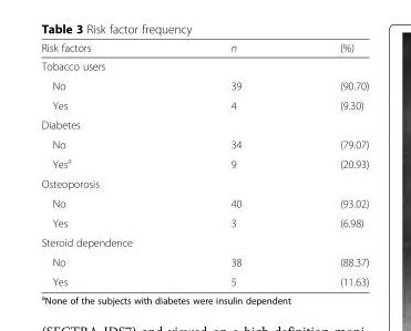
<table><thead><tr><td>Risk factors</td><td>n</td><td>(%)</td></tr></thead><tbody><tr><td colspan="3">Tobacco users</td></tr><tr><td>No</td><td>39</td><td>(90.70)</td></tr><tr><td>Yes</td><td>4</td><td>(9.30)</td></tr><tr><td colspan="3">Diabetes</td></tr><tr><td>No</td><td>34</td><td>(79.07)</td></tr><tr><td>Yes<sup>a</sup></td><td>9</td><td>(20.93)</td></tr><tr><td colspan="3">Osteoporosis</td></tr><tr><td>No</td><td>40</td><td>(93.02)</td></tr><tr><td>Yes</td><td>3</td><td>(6.98)</td></tr><tr><td colspan="3">Steroid dependence</td></tr><tr><td>No</td><td>38</td><td>(88.37)</td></tr><tr><td>Yes</td><td>5</td><td>(11.63)</td></tr></tbody></table>